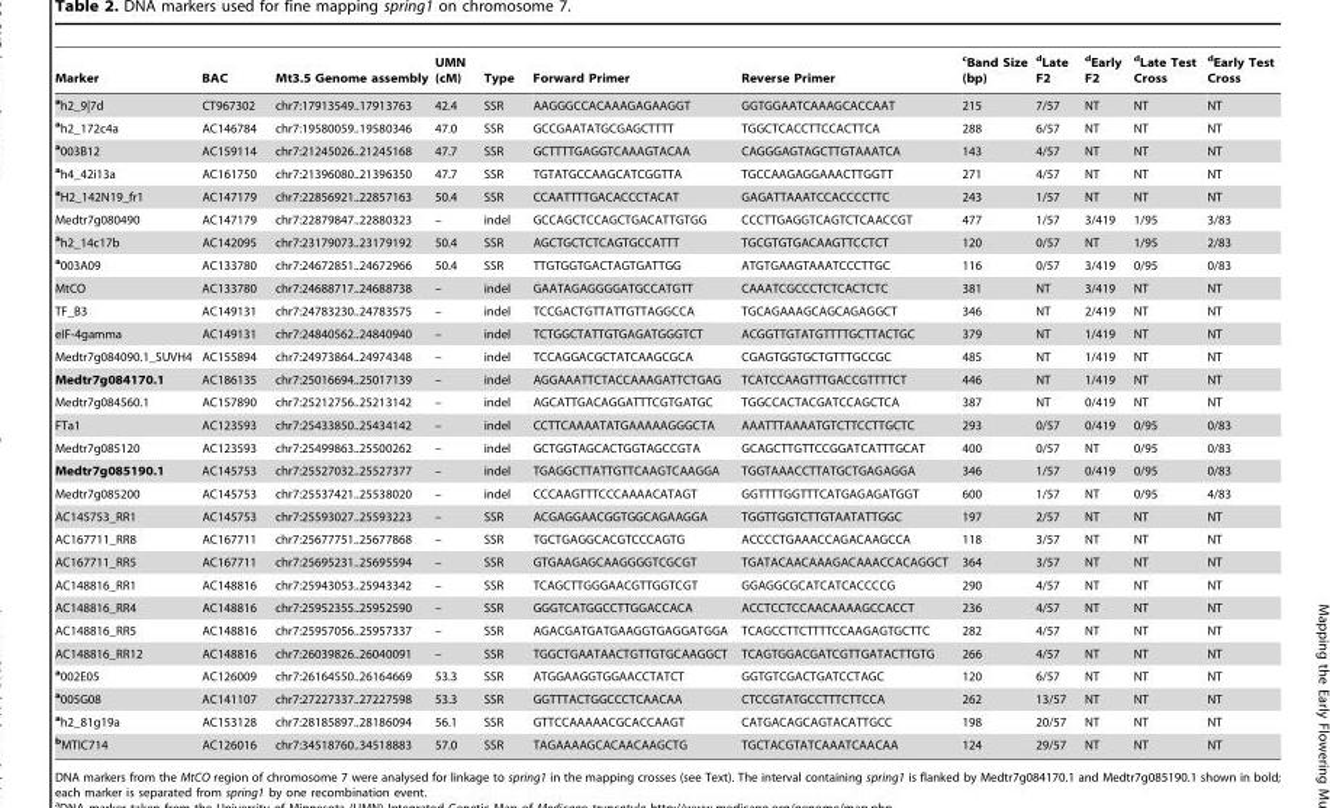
<table><thead><tr><td>Marker</td><td>BAC</td><td>Mt3.5 Genome assembly</td><td>UMN (cM)</td><td>Type</td><td>Forward Primer</td><td>Reverse Primer</td><td>cBand Size (bp)</td><td>dLate F2</td><td>dEarly F2</td><td>dLate Test Cross</td><td>dEarly Test Cross</td></tr></thead><tbody><tr><td>ah2_9|7d</td><td>CT967302</td><td>chr7:17913549..17913763</td><td>42.4</td><td>SSR</td><td>AAGGGCCACAAAGAGAAGGT</td><td>GGTGGAATCAAAGCACCAAT</td><td>215</td><td>7/57</td><td>NT</td><td>NT</td><td>NT</td></tr><tr><td>ah2_172c4a</td><td>AC146784</td><td>chr7:19580059..19580346</td><td>47.0</td><td>SSR</td><td>GCCGAATATGCGAGCTTTT</td><td>TGGCTCACCTTCCACTTCA</td><td>288</td><td>6/57</td><td>NT</td><td>NT</td><td>NT</td></tr><tr><td>a003B12</td><td>AC159114</td><td>chr7:21245026..21245168</td><td>47.7</td><td>SSR</td><td>GCTTTTGAGGTCAAAGTACAA</td><td>CAGGGAGTAGCTTGTAAATCA</td><td>143</td><td>4/57</td><td>NT</td><td>NT</td><td>NT</td></tr><tr><td>ah4_42i13a</td><td>AC161750</td><td>chr7:21396080..21396350</td><td>47.7</td><td>SSR</td><td>TGTATGCCAAGCATCGGTTA</td><td>TGCCAAGAGGAAACTTGGTT</td><td>271</td><td>4/57</td><td>NT</td><td>NT</td><td>NT</td></tr><tr><td>aH2_142N19_fr1</td><td>AC147179</td><td>chr7:22856921..22857163</td><td>50.4</td><td>SSR</td><td>CCAATTTTGACACCCTACAT</td><td>GAGATTAAATCCACCCCTTC</td><td>243</td><td>1/57</td><td>NT</td><td>NT</td><td>NT</td></tr><tr><td>Medtr7g080490</td><td>AC147179</td><td>chr7:22879847..22880323</td><td>–</td><td>indel</td><td>GCCAGCTCCAGCTGACATTGTGG</td><td>CCCTTGAGGTCAGTCTCAACCGT</td><td>477</td><td>1/57</td><td>3/419</td><td>1/95</td><td>3/83</td></tr><tr><td>ah2_14c17b</td><td>AC142095</td><td>chr7:23179073..23179192</td><td>50.4</td><td>SSR</td><td>AGCTGCTCTCAGTGCCATTT</td><td>TGCGTGTGACAAGTTCCTCT</td><td>120</td><td>0/57</td><td>NT</td><td>1/95</td><td>2/83</td></tr><tr><td>a003A09</td><td>AC133780</td><td>chr7:24672851..24672966</td><td>50.4</td><td>SSR</td><td>TTGTGGTGACTAGTGATTGG</td><td>ATGTGAAGTAAATCCCTTGC</td><td>116</td><td>0/57</td><td>3/419</td><td>0/95</td><td>0/83</td></tr><tr><td>MtCO</td><td>AC133780</td><td>chr7:24688717..24688738</td><td>–</td><td>indel</td><td>GAATAGAGGGGATGCCATGTT</td><td>CAAATCGCCCTCTCACTCTC</td><td>381</td><td>NT</td><td>3/419</td><td>NT</td><td>NT</td></tr><tr><td>TF_B3</td><td>AC149131</td><td>chr7:24783230..24783575</td><td>–</td><td>indel</td><td>TCCGACTGTTATTGTTAGGCCA</td><td>TGCAGAAAGCAGCAGAGGCT</td><td>346</td><td>NT</td><td>2/419</td><td>NT</td><td>NT</td></tr><tr><td>eIF-4gamma</td><td>AC149131</td><td>chr7:24840562..24840940</td><td>–</td><td>indel</td><td>TCTGGCTATTGTGAGATGGGTCT</td><td>ACGGTTGTATGTTTTGCTTACTGC</td><td>379</td><td>NT</td><td>1/419</td><td>NT</td><td>NT</td></tr><tr><td>Medtr7g084090.1_SUVH4</td><td>AC155894</td><td>chr7:24973864..24974348</td><td>–</td><td>indel</td><td>TCCAGGACGCTATCAAGCGCA</td><td>CGAGTGGTGCTGTTTGCCGC</td><td>485</td><td>NT</td><td>1/419</td><td>NT</td><td>NT</td></tr><tr><td>Medtr7g084170.1</td><td>AC186135</td><td>chr7:25016694..25017139</td><td>–</td><td>indel</td><td>AGGAAATTCTACCAAAGATTCTGAG</td><td>TCATCCAAGTTTGACCGTTTTCT</td><td>446</td><td>NT</td><td>1/419</td><td>NT</td><td>NT</td></tr><tr><td>Medtr7g084560.1</td><td>AC157890</td><td>chr7:25212756..25213142</td><td>–</td><td>indel</td><td>AGCATTGACAGGATTTCGTGATGC</td><td>TGGCCACTACGATCCAGCTCA</td><td>387</td><td>NT</td><td>0/419</td><td>NT</td><td>NT</td></tr><tr><td>FTa1</td><td>AC123593</td><td>chr7:25433850..25434142</td><td>–</td><td>indel</td><td>CCTTCAAAATATGAAAAAGGGCTA</td><td>AAATTTAAAATGTCTTCCTTGCTC</td><td>293</td><td>0/57</td><td>0/419</td><td>0/95</td><td>0/83</td></tr><tr><td>Medtr7g085120</td><td>AC123593</td><td>chr7:25499863..25500262</td><td>–</td><td>indel</td><td>GCTGGTAGCACTGGTAGCCGTA</td><td>GCAGCTTGTTCCGGATCATTTGCAT</td><td>400</td><td>0/57</td><td>NT</td><td>0/95</td><td>0/83</td></tr><tr><td>Medtr7g085190.1</td><td>AC145753</td><td>chr7:25527032..25527377</td><td>–</td><td>indel</td><td>TGAGGCTTATTGTTCAAGTCAAGGA</td><td>TGGTAAACCTTATGCTGAGAGGA</td><td>346</td><td>1/57</td><td>0/419</td><td>0/95</td><td>0/83</td></tr><tr><td>Medtr7g085200</td><td>AC145753</td><td>chr7:25537421..25538020</td><td>–</td><td>indel</td><td>CCCAAGTTTCCCAAAACATAGT</td><td>GGTTTTGGTTTCATGAGAGATGGT</td><td>600</td><td>1/57</td><td>NT</td><td>0/95</td><td>4/83</td></tr><tr><td>AC145753_RR1</td><td>AC145753</td><td>chr7:25593027..25593223</td><td>–</td><td>SSR</td><td>ACGAGGAACGGTGGCAGAAGGA</td><td>TGGTTGGTCTTGTAATATTGGC</td><td>197</td><td>2/57</td><td>NT</td><td>NT</td><td>NT</td></tr><tr><td>AC167711_RR8</td><td>AC167711</td><td>chr7:25677751..25677868</td><td>–</td><td>SSR</td><td>TGCTGAGGCACGTCCCAGTG</td><td>ACCCCTGAAACCAGACAAGCCA</td><td>118</td><td>3/57</td><td>NT</td><td>NT</td><td>NT</td></tr><tr><td>AC167711_RR5</td><td>AC167711</td><td>chr7:25695231..25695594</td><td>–</td><td>SSR</td><td>GTGAAGAGCAAGGGGTCGCGT</td><td>TGATACAACAAAGACAAACCACAGGCT</td><td>364</td><td>3/57</td><td>NT</td><td>NT</td><td>NT</td></tr><tr><td>AC148816_RR1</td><td>AC148816</td><td>chr7:25943053..25943342</td><td>–</td><td>SSR</td><td>TCAGCTTGGGAACGTTGGTCGT</td><td>GGAGGCGCATCATCACCCCG</td><td>290</td><td>4/57</td><td>NT</td><td>NT</td><td>NT</td></tr><tr><td>AC148816_RR4</td><td>AC148816</td><td>chr7:25952355..25952590</td><td>–</td><td>SSR</td><td>GGGTCATGGCCTTGGACCACA</td><td>ACCTCCTCCAACAAAAGCCACCT</td><td>236</td><td>4/57</td><td>NT</td><td>NT</td><td>NT</td></tr><tr><td>AC148816_RR5</td><td>AC148816</td><td>chr7:25957056..25957337</td><td>–</td><td>SSR</td><td>AGACGATGATGAAGGTGAGGATGGA</td><td>TCAGCCTTCTTTTCCAAGAGTGCTTC</td><td>282</td><td>4/57</td><td>NT</td><td>NT</td><td>NT</td></tr><tr><td>AC148816_RR12</td><td>AC148816</td><td>chr7:26039826..26040091</td><td>–</td><td>SSR</td><td>TGGCTGAATAACTGTTGTGCAAGGCT</td><td>TCAGTGGACGATCGTTGATACTTGTG</td><td>266</td><td>4/57</td><td>NT</td><td>NT</td><td>NT</td></tr><tr><td>a002E05</td><td>AC126009</td><td>chr7:26164550..26164669</td><td>53.3</td><td>SSR</td><td>ATGGAAGGTGGAACCTATCT</td><td>GGTGTCGACTGATCCTAGC</td><td>120</td><td>6/57</td><td>NT</td><td>NT</td><td>NT</td></tr><tr><td>a005G08</td><td>AC141107</td><td>chr7:27227337..27227598</td><td>53.3</td><td>SSR</td><td>GGTTTACTGGCCCTCAACAA</td><td>CTCCGTATGCCTTTCTTCCA</td><td>262</td><td>13/57</td><td>NT</td><td>NT</td><td>NT</td></tr><tr><td>ah2_81g19a</td><td>AC153128</td><td>chr7:28185897..28186094</td><td>56.1</td><td>SSR</td><td>GTTCCAAAAACGCACCAAGT</td><td>CATGACAGCAGTACATTGCC</td><td>198</td><td>20/57</td><td>NT</td><td>NT</td><td>NT</td></tr><tr><td>bMTIC714</td><td>AC126016</td><td>chr7:34518760..34518883</td><td>57.0</td><td>SSR</td><td>TAGAAAAGCACAACAAGCTG</td><td>TGCTACGTATCAAATCAACAA</td><td>124</td><td>29/57</td><td>NT</td><td>NT</td><td>NT</td></tr></tbody></table>